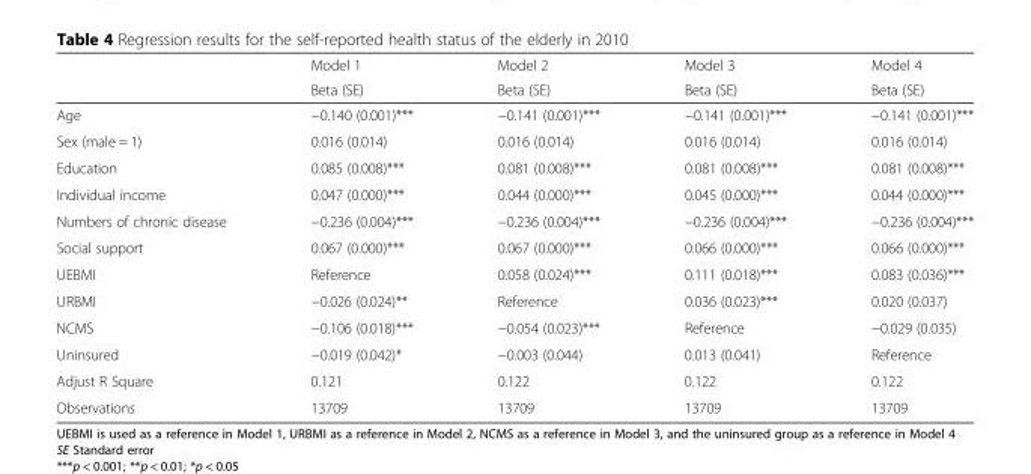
<table><thead><tr><td rowspan="2"></td><td rowspan="2">Model 1 Beta (SE)</td><td rowspan="2">Model 2 Beta (SE)</td><td rowspan="2">Model 3 Beta (SE)</td><td rowspan="2">Model 4 Beta (SE)</td></tr><tr></tr></thead><tbody><tr><td>Age</td><td>−0.140 (0.001)***</td><td>−0.141 (0.001)***</td><td>−0.141 (0.001)***</td><td>−0.141 (0.001)***</td></tr><tr><td>Sex (male = 1)</td><td>0.016 (0.014)</td><td>0.016 (0.014)</td><td>0.016 (0.014)</td><td>0.016 (0.014)</td></tr><tr><td>Education</td><td>0.085 (0.008)***</td><td>0.081 (0.008)***</td><td>0.081 (0.008)***</td><td>0.081 (0.008)***</td></tr><tr><td>Individual income</td><td>0.047 (0.000)***</td><td>0.044 (0.000)***</td><td>0.045 (0.000)***</td><td>0.044 (0.000)***</td></tr><tr><td>Numbers of chronic disease</td><td>−0.236 (0.004)***</td><td>−0.236 (0.004)***</td><td>−0.236 (0.004)***</td><td>−0.236 (0.004)***</td></tr><tr><td>Social support</td><td>0.067 (0.000)***</td><td>0.067 (0.000)***</td><td>0.066 (0.000)***</td><td>0.066 (0.000)***</td></tr><tr><td>UEBMI</td><td>Reference</td><td>0.058 (0.024)***</td><td>0.111 (0.018)***</td><td>0.083 (0.036)***</td></tr><tr><td>URBMI</td><td>−0.026 (0.024)**</td><td>Reference</td><td>0.036 (0.023)***</td><td>0.020 (0.037)</td></tr><tr><td>NCMS</td><td>−0.106 (0.018)***</td><td>−0.054 (0.023)***</td><td>Reference</td><td>−0.029 (0.035)</td></tr><tr><td>Uninsured</td><td>−0.019 (0.042)*</td><td>−0.003 (0.044)</td><td>0.013 (0.041)</td><td>Reference</td></tr><tr><td>Adjust R Square</td><td>0.121</td><td>0.122</td><td>0.122</td><td>0.122</td></tr><tr><td>Observations</td><td>13709</td><td>13709</td><td>13709</td><td>13709</td></tr></tbody></table>